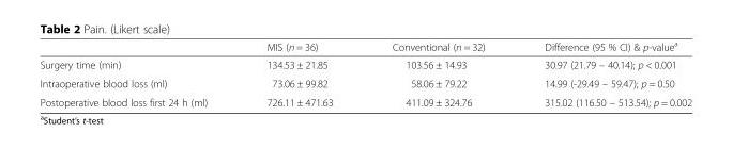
<table><thead><tr><td></td><td>MIS (n = 36)</td><td>Conventional (n = 32)</td><td>Difference (95 % CI) &amp; p-value<sup>a</sup></td></tr></thead><tbody><tr><td>Surgery time (min)</td><td>134.53 ± 21.85</td><td>103.56 ± 14.93</td><td>30.97 (21.79 – 40.14); p &lt; 0.001</td></tr><tr><td>Intraoperative blood loss (ml)</td><td>73.06 ± 99.82</td><td>58.06 ± 79.22</td><td>14.99 (-29.49 – 59.47); p = 0.50</td></tr><tr><td>Postoperative blood loss first 24 h (ml)</td><td>726.11 ± 471.63</td><td>411.09 ± 324.76</td><td>315.02 (116.50 – 513.54); p = 0.002</td></tr></tbody></table>